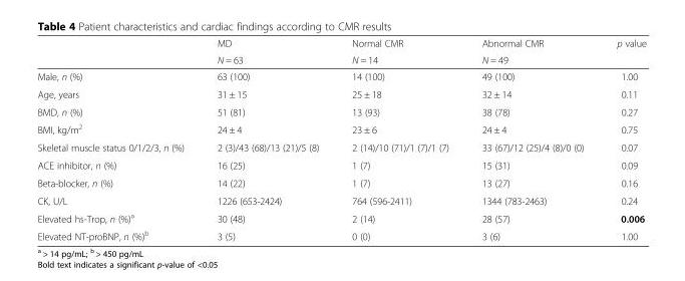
<table><thead><tr><td rowspan="2"></td><td rowspan="2">MD N = 63</td><td rowspan="2">Normal CMR N = 14</td><td rowspan="2">Abnormal CMR N = 49</td><td rowspan="2">p value</td></tr><tr></tr></thead><tbody><tr><td>Male, n (%)</td><td>63 (100)</td><td>14 (100)</td><td>49 (100)</td><td>1.00</td></tr><tr><td>Age, years</td><td>31 ± 15</td><td>25 ± 18</td><td>32 ± 14</td><td>0.11</td></tr><tr><td>BMD, n (%)</td><td>51 (81)</td><td>13 (93)</td><td>38 (78)</td><td>0.27</td></tr><tr><td>BMI, kg/m<sup>2</sup></td><td>24 ± 4</td><td>23 ± 6</td><td>24 ± 4</td><td>0.75</td></tr><tr><td>Skeletal muscle status 0/1/2/3, n (%)</td><td>2 (3)/43 (68)/13 (21)/5 (8)</td><td>2 (14)/10 (71)/1 (7)/1 (7)</td><td>33 (67)/12 (25)/4 (8)/0 (0)</td><td>0.07</td></tr><tr><td>ACE inhibitor, n (%)</td><td>16 (25)</td><td>1 (7)</td><td>15 (31)</td><td>0.09</td></tr><tr><td>Beta-blocker, n (%)</td><td>14 (22)</td><td>1 (7)</td><td>13 (27)</td><td>0.16</td></tr><tr><td>CK, U/L</td><td>1226 (653-2424)</td><td>764 (596-2411)</td><td>1344 (783-2463)</td><td>0.24</td></tr><tr><td>Elevated hs-Trop, n (%)<sup>a</sup></td><td>30 (48)</td><td>2 (14)</td><td>28 (57)</td><td>0.006</td></tr><tr><td>Elevated NT-proBNP, n (%)<sup>b</sup></td><td>3 (5)</td><td>0 (0)</td><td>3 (6)</td><td>1.00</td></tr></tbody></table>